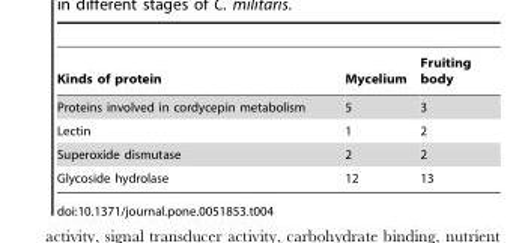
<table><thead><tr><td>Kinds of protein</td><td>Mycelium</td><td>Fruiting body</td></tr></thead><tbody><tr><td>Proteins involved in cordycepin metabolism</td><td>5</td><td>3</td></tr><tr><td>Lectin</td><td>1</td><td>2</td></tr><tr><td>Superoxide dismutase</td><td>2</td><td>2</td></tr><tr><td>Glycoside hydrolase</td><td>12</td><td>13</td></tr></tbody></table>